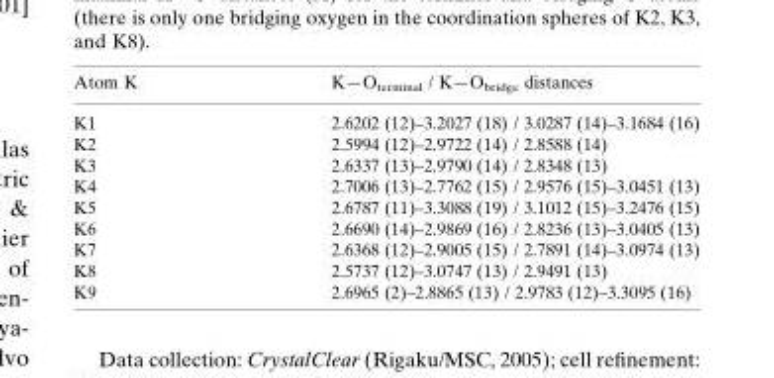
<table><tbody><tr><td>Atom K</td><td>K—O<sub>terminal</sub> / K—O<sub>bridge</sub> distances</td></tr><tr><td>K1</td><td>2.6202 (12)–3.2027 (18) / 3.0287 (14)–3.1684 (16)</td></tr><tr><td>K2</td><td>2.5994 (12)–2.9722 (14) / 2.8588 (14)</td></tr><tr><td>K3</td><td>2.6337 (13)–2.9790 (14) / 2.8348 (13)</td></tr><tr><td>K4</td><td>2.7006 (13)–2.7762 (15) / 2.9576 (15)–3.0451 (13)</td></tr><tr><td>K5</td><td>2.6787 (11)–3.3088 (19) / 3.1012 (15)–3.2476 (15)</td></tr><tr><td>K6</td><td>2.6690 (14)–2.9869 (16) / 2.8236 (13)–3.0405 (13)</td></tr><tr><td>K7</td><td>2.6368 (12)–2.9005 (15) / 2.7891 (14)–3.0974 (13)</td></tr><tr><td>K8</td><td>2.5737 (12)–3.0747 (13) / 2.9491 (13)</td></tr><tr><td>K9</td><td>2.6965 (2)–2.8865 (13) / 2.9783 (12)–3.3095 (16)</td></tr></tbody></table>